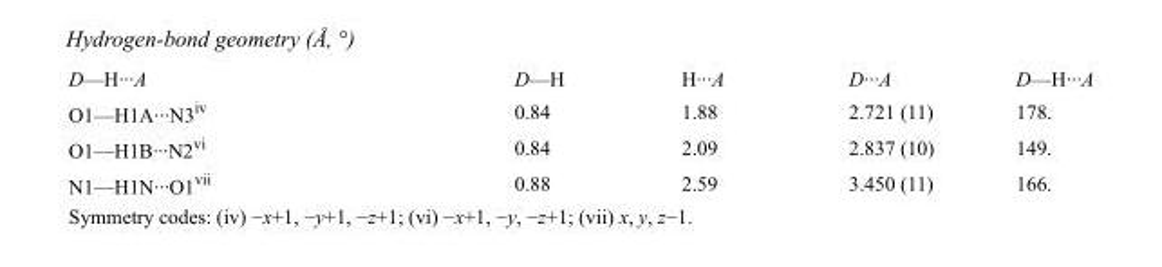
<table><tbody><tr><td>D—H···A</td><td>D—H</td><td>H···A</td><td>D···A</td><td>D—H···A</td></tr><tr><td>O1—H1A···N3<sup>iv</sup></td><td>0.84</td><td>1.88</td><td>2.721 (11)</td><td>178.</td></tr><tr><td>O1—H1B···N2<sup>vi</sup></td><td>0.84</td><td>2.09</td><td>2.837 (10)</td><td>149.</td></tr><tr><td>N1—H1N···O1<sup>vii</sup></td><td>0.88</td><td>2.59</td><td>3.450 (11)</td><td>166.</td></tr></tbody></table>